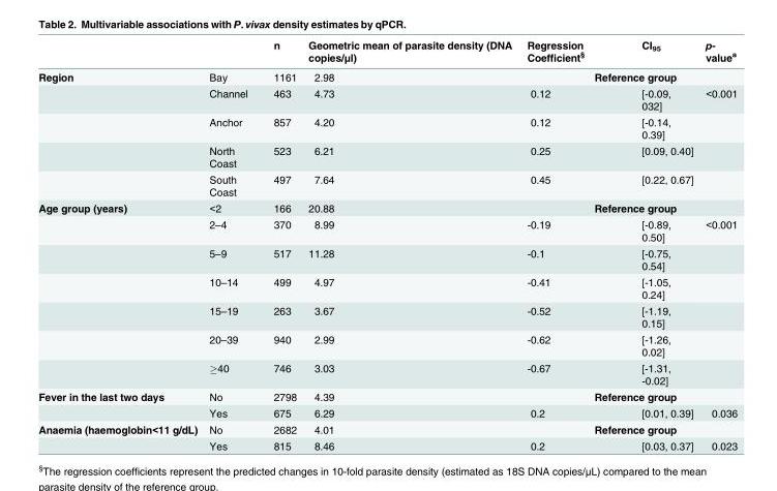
<table><thead><tr><td></td><td></td><td>n</td><td>Geometric mean of parasite density (DNA copies/μl)</td><td>Regression Coefficient<sup>§</sup></td><td>CI<sub>95</sub></td><td>p- value<sup>a</sup></td></tr></thead><tbody><tr><td rowspan="5">Region</td><td>Bay</td><td>1161</td><td>2.98</td><td colspan="3">Reference group</td></tr><tr><td>Channel</td><td>463</td><td>4.73</td><td>0.12</td><td>[-0.09, 032]</td><td>&lt;0.001</td></tr><tr><td>Anchor</td><td>857</td><td>4.20</td><td>0.12</td><td>[-0.14, 0.39]</td><td></td></tr><tr><td>North Coast</td><td>523</td><td>6.21</td><td>0.25</td><td>[0.09, 0.40]</td><td></td></tr><tr><td>South Coast</td><td>497</td><td>7.64</td><td>0.45</td><td>[0.22, 0.67]</td><td></td></tr><tr><td rowspan="7">Age group (years)</td><td>&lt;2</td><td>166</td><td>20.88</td><td colspan="3">Reference group</td></tr><tr><td>2–4</td><td>370</td><td>8.99</td><td>-0.19</td><td>[-0.89, 0.50]</td><td>&lt;0.001</td></tr><tr><td>5–9</td><td>517</td><td>11.28</td><td>-0.1</td><td>[-0.75, 0.54]</td><td></td></tr><tr><td>10–14</td><td>499</td><td>4.97</td><td>-0.41</td><td>[-1.05, 0.24]</td><td></td></tr><tr><td>15–19</td><td>263</td><td>3.67</td><td>-0.52</td><td>[-1.19, 0.15]</td><td></td></tr><tr><td>20–39</td><td>940</td><td>2.99</td><td>-0.62</td><td>[-1.26, 0.02]</td><td></td></tr><tr><td>≥40</td><td>746</td><td>3.03</td><td>-0.67</td><td>[-1.31, -0.02]</td><td></td></tr><tr><td rowspan="2">Fever in the last two days</td><td>No</td><td>2798</td><td>4.39</td><td colspan="3">Reference group</td></tr><tr><td>Yes</td><td>675</td><td>6.29</td><td>0.2</td><td>[0.01, 0.39]</td><td>0.036</td></tr><tr><td rowspan="2">Anaemia (haemoglobin&lt;11 g/dL)</td><td>No</td><td>2682</td><td>4.01</td><td colspan="3">Reference group</td></tr><tr><td>Yes</td><td>815</td><td>8.46</td><td>0.2</td><td>[0.03, 0.37]</td><td>0.023</td></tr></tbody></table>